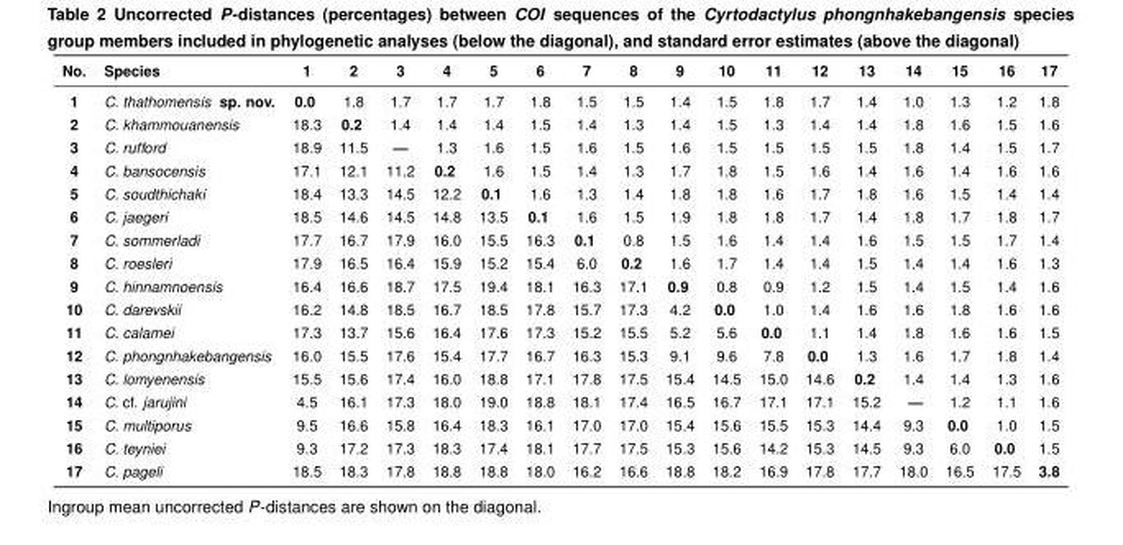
<table><thead><tr><td>No.</td><td>Species</td><td>1</td><td>2</td><td>3</td><td>4</td><td>5</td><td>6</td><td>7</td><td>8</td><td>9</td><td>10</td><td>11</td><td>12</td><td>13</td><td>14</td><td>15</td><td>16</td><td>17</td></tr></thead><tbody><tr><td>1</td><td>C. thathomensis sp. nov.</td><td>0.0</td><td>1.8</td><td>1.7</td><td>1.7</td><td>1.7</td><td>1.8</td><td>1.5</td><td>1.5</td><td>1.4</td><td>1.5</td><td>1.8</td><td>1.7</td><td>1.4</td><td>1.0</td><td>1.3</td><td>1.2</td><td>1.8</td></tr><tr><td>2</td><td>C. khammouanensis</td><td>18.3</td><td>0.2</td><td>1.4</td><td>1.4</td><td>1.4</td><td>1.5</td><td>1.4</td><td>1.3</td><td>1.4</td><td>1.5</td><td>1.3</td><td>1.4</td><td>1.4</td><td>1.8</td><td>1.6</td><td>1.5</td><td>1.6</td></tr><tr><td>3</td><td>C. rufford</td><td>18.9</td><td>11.5</td><td>—</td><td>1.3</td><td>1.6</td><td>1.5</td><td>1.6</td><td>1.5</td><td>1.6</td><td>1.5</td><td>1.5</td><td>1.5</td><td>1.5</td><td>1.8</td><td>1.4</td><td>1.5</td><td>1.7</td></tr><tr><td>4</td><td>C. bansocensis</td><td>17.1</td><td>12.1</td><td>11.2</td><td>0.2</td><td>1.6</td><td>1.5</td><td>1.4</td><td>1.3</td><td>1.7</td><td>1.8</td><td>1.5</td><td>1.6</td><td>1.4</td><td>1.6</td><td>1.4</td><td>1.6</td><td>1.6</td></tr><tr><td>5</td><td>C. soudthichaki</td><td>18.4</td><td>13.3</td><td>14.5</td><td>12.2</td><td>0.1</td><td>1.6</td><td>1.3</td><td>1.4</td><td>1.8</td><td>1.8</td><td>1.6</td><td>1.7</td><td>1.8</td><td>1.6</td><td>1.5</td><td>1.4</td><td>1.4</td></tr><tr><td>6</td><td>C. jaegeri</td><td>18.5</td><td>14.6</td><td>14.5</td><td>14.8</td><td>13.5</td><td>0.1</td><td>1.6</td><td>1.5</td><td>1.9</td><td>1.8</td><td>1.8</td><td>1.7</td><td>1.4</td><td>1.8</td><td>1.7</td><td>1.8</td><td>1.7</td></tr><tr><td>7</td><td>C. sommerladi</td><td>17.7</td><td>16.7</td><td>17.9</td><td>16.0</td><td>15.5</td><td>16.3</td><td>0.1</td><td>0.8</td><td>1.5</td><td>1.6</td><td>1.4</td><td>1.4</td><td>1.6</td><td>1.5</td><td>1.5</td><td>1.7</td><td>1.4</td></tr><tr><td>8</td><td>C. roesleri</td><td>17.9</td><td>16.5</td><td>16.4</td><td>15.9</td><td>15.2</td><td>15.4</td><td>6.0</td><td>0.2</td><td>1.6</td><td>1.7</td><td>1.4</td><td>1.4</td><td>1.5</td><td>1.4</td><td>1.4</td><td>1.6</td><td>1.3</td></tr><tr><td>9</td><td>C. hinnamnoensis</td><td>16.4</td><td>16.6</td><td>18.7</td><td>17.5</td><td>19.4</td><td>18.1</td><td>16.3</td><td>17.1</td><td>0.9</td><td>0.8</td><td>0.9</td><td>1.2</td><td>1.5</td><td>1.4</td><td>1.5</td><td>1.4</td><td>1.6</td></tr><tr><td>10</td><td>C. darevskii</td><td>16.2</td><td>14.8</td><td>18.5</td><td>16.7</td><td>18.5</td><td>17.8</td><td>15.7</td><td>17.3</td><td>4.2</td><td>0.0</td><td>1.0</td><td>1.4</td><td>1.6</td><td>1.6</td><td>1.8</td><td>1.6</td><td>1.6</td></tr><tr><td>11</td><td>C. calamei</td><td>17.3</td><td>13.7</td><td>15.6</td><td>16.4</td><td>17.6</td><td>17.3</td><td>15.2</td><td>15.5</td><td>5.2</td><td>5.6</td><td>0.0</td><td>1.1</td><td>1.4</td><td>1.8</td><td>1.6</td><td>1.6</td><td>1.5</td></tr><tr><td>12</td><td>C. phongnhakebangensis</td><td>16.0</td><td>15.5</td><td>17.6</td><td>15.4</td><td>17.7</td><td>16.7</td><td>16.3</td><td>15.3</td><td>9.1</td><td>9.6</td><td>7.8</td><td>0.0</td><td>1.3</td><td>1.6</td><td>1.7</td><td>1.8</td><td>1.4</td></tr><tr><td>13</td><td>C. lomyenensis</td><td>15.5</td><td>15.6</td><td>17.4</td><td>16.0</td><td>18.8</td><td>17.1</td><td>17.8</td><td>17.5</td><td>15.4</td><td>14.5</td><td>15.0</td><td>14.6</td><td>0.2</td><td>1.4</td><td>1.4</td><td>1.3</td><td>1.6</td></tr><tr><td>14</td><td>C. cf. jarujini</td><td>4.5</td><td>16.1</td><td>17.3</td><td>18.0</td><td>19.0</td><td>18.8</td><td>18.1</td><td>17.4</td><td>16.5</td><td>16.7</td><td>17.1</td><td>17.1</td><td>15.2</td><td>—</td><td>1.2</td><td>1.1</td><td>1.6</td></tr><tr><td>15</td><td>C. multiporus</td><td>9.5</td><td>16.6</td><td>15.8</td><td>16.4</td><td>18.3</td><td>16.1</td><td>17.0</td><td>17.0</td><td>15.4</td><td>15.6</td><td>15.5</td><td>15.3</td><td>14.4</td><td>9.3</td><td>0.0</td><td>1.0</td><td>1.5</td></tr><tr><td>16</td><td>C. teyniei</td><td>9.3</td><td>17.2</td><td>17.3</td><td>18.3</td><td>17.4</td><td>18.1</td><td>17.7</td><td>17.5</td><td>15.3</td><td>15.6</td><td>14.2</td><td>15.3</td><td>14.5</td><td>9.3</td><td>6.0</td><td>0.0</td><td>1.5</td></tr><tr><td>17</td><td>C. pageli</td><td>18.5</td><td>18.3</td><td>17.8</td><td>18.8</td><td>18.8</td><td>18.0</td><td>16.2</td><td>16.6</td><td>18.8</td><td>18.2</td><td>16.9</td><td>17.8</td><td>17.7</td><td>18.0</td><td>16.5</td><td>17.5</td><td>3.8</td></tr></tbody></table>